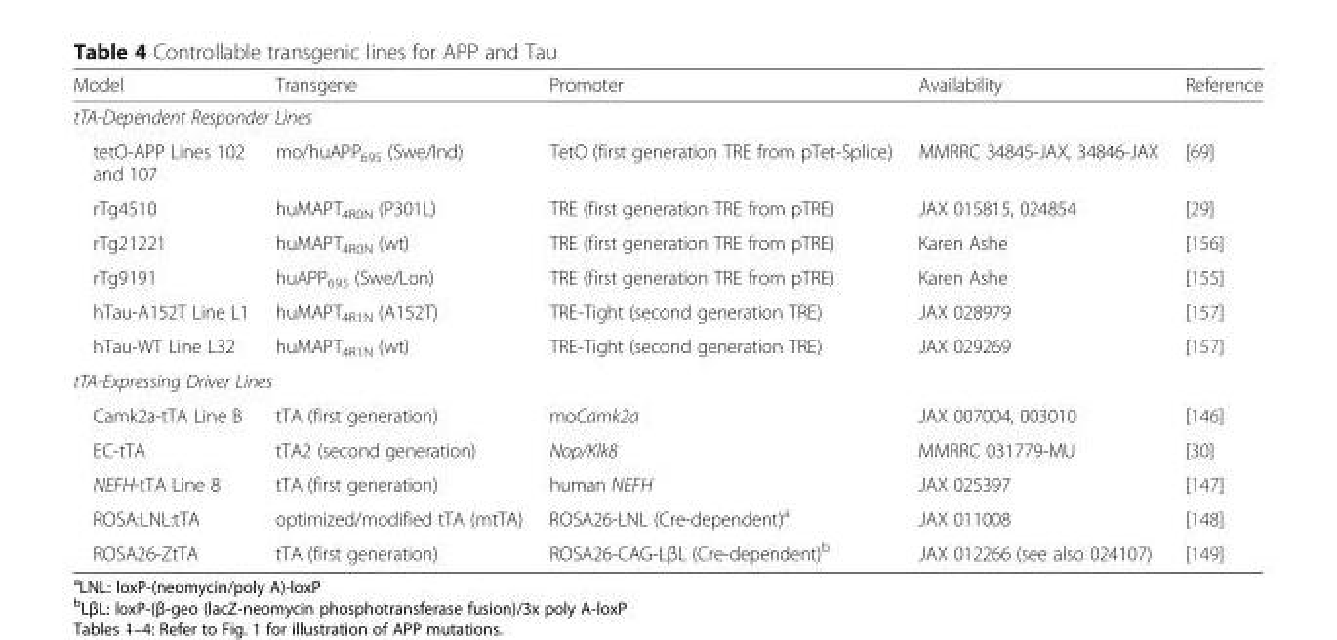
<table><thead><tr><td>Model</td><td>Transgene</td><td>Promoter</td><td>Availability</td><td>Reference</td></tr></thead><tbody><tr><td colspan="5">tTA-Dependent Responder Lines</td></tr><tr><td>tetO-APP Lines 102 and 107</td><td>mo/huAPP<sub>695</sub> (Swe/Ind)</td><td>TetO (first generation TRE from pTet-Splice)</td><td>MMRRC 34845-JAX, 34846-JAX</td><td>[69]</td></tr><tr><td>rTg4510</td><td>huMAPT<sub>4R0N</sub> (P301L)</td><td>TRE (first generation TRE from pTRE)</td><td>JAX 015815, 024854</td><td>[29]</td></tr><tr><td>rTg21221</td><td>huMAPT<sub>4R0N</sub> (wt)</td><td>TRE (first generation TRE from pTRE)</td><td>Karen Ashe</td><td>[156]</td></tr><tr><td>rTg9191</td><td>huAPP<sub>695</sub> (Swe/Lon)</td><td>TRE (first generation TRE from pTRE)</td><td>Karen Ashe</td><td>[155]</td></tr><tr><td>hTau-A152T Line L1</td><td>huMAPT<sub>4R1N</sub> (A152T)</td><td>TRE-Tight (second generation TRE)</td><td>JAX 028979</td><td>[157]</td></tr><tr><td>hTau-WT Line L32</td><td>huMAPT<sub>4R1N</sub> (wt)</td><td>TRE-Tight (second generation TRE)</td><td>JAX 029269</td><td>[157]</td></tr><tr><td colspan="5">tTA-Expressing Driver Lines</td></tr><tr><td>Camk2a-tTA Line B</td><td>tTA (first generation)</td><td>moCamk2a</td><td>JAX 007004, 003010</td><td>[146]</td></tr><tr><td>EC-tTA</td><td>tTA2 (second generation)</td><td>Nop/Klk8</td><td>MMRRC 031779-MU</td><td>[30]</td></tr><tr><td>NEFH-tTA Line 8</td><td>tTA (first generation)</td><td>human NEFH</td><td>JAX 025397</td><td>[147]</td></tr><tr><td>ROSA:LNL:tTA</td><td>optimized/modified tTA (mtTA)</td><td>ROSA26-LNL (Cre-dependent)<sup>a</sup></td><td>JAX 011008</td><td>[148]</td></tr><tr><td>ROSA26-ZtTA</td><td>tTA (first generation)</td><td>ROSA26-CAG-LβL (Cre-dependent)<sup>b</sup></td><td>JAX 012266 (see also 024107)</td><td>[149]</td></tr></tbody></table>